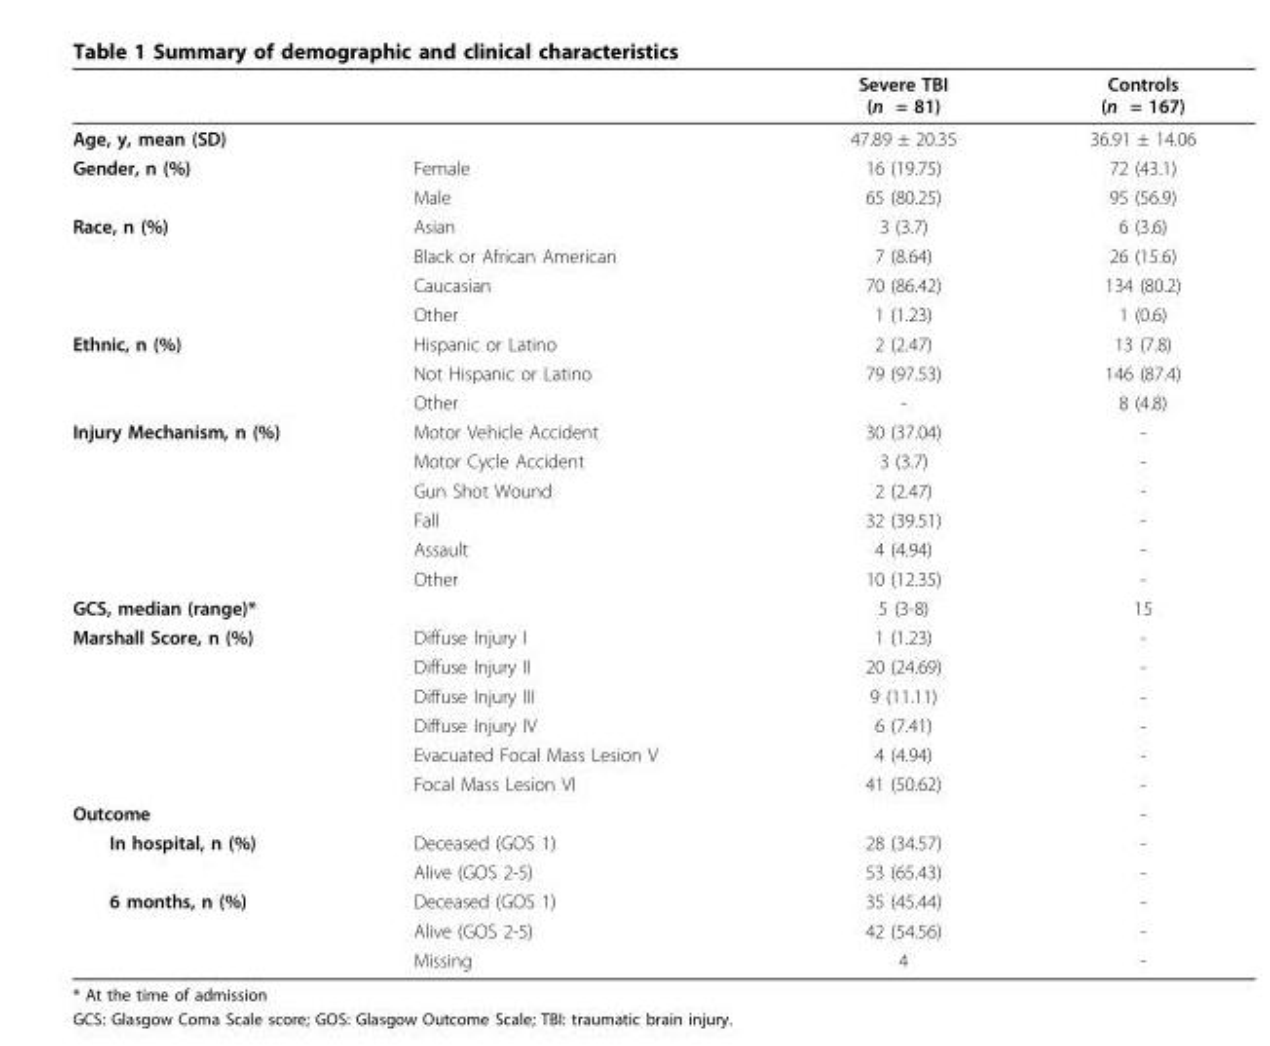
<table><thead><tr><td></td><td></td><td>Severe TBI (n = 81)</td><td>Controls (n = 167)</td></tr></thead><tbody><tr><td>Age, y, mean (SD)</td><td></td><td>47.89 ± 20.35</td><td>36.91 ± 14.06</td></tr><tr><td rowspan="2">Gender, n (%)</td><td>Female</td><td>16 (19.75)</td><td>72 (43.1)</td></tr><tr><td>Male</td><td>65 (80.25)</td><td>95 (56.9)</td></tr><tr><td rowspan="4">Race, n (%)</td><td>Asian</td><td>3 (3.7)</td><td>6 (3.6)</td></tr><tr><td>Black or African American</td><td>7 (8.64)</td><td>26 (15.6)</td></tr><tr><td>Caucasian</td><td>70 (86.42)</td><td>134 (80.2)</td></tr><tr><td>Other</td><td>1 (1.23)</td><td>1 (0.6)</td></tr><tr><td rowspan="3">Ethnic, n (%)</td><td>Hispanic or Latino</td><td>2 (2.47)</td><td>13 (7.8)</td></tr><tr><td>Not Hispanic or Latino</td><td>79 (97.53)</td><td>146 (87.4)</td></tr><tr><td>Other</td><td>-</td><td>8 (4.8)</td></tr><tr><td rowspan="6">Injury Mechanism, n (%)</td><td>Motor Vehicle Accident</td><td>30 (37.04)</td><td>-</td></tr><tr><td>Motor Cycle Accident</td><td>3 (3.7)</td><td>-</td></tr><tr><td>Gun Shot Wound</td><td>2 (2.47)</td><td>-</td></tr><tr><td>Fall</td><td>32 (39.51)</td><td>-</td></tr><tr><td>Assault</td><td>4 (4.94)</td><td>-</td></tr><tr><td>Other</td><td>10 (12.35)</td><td>-</td></tr><tr><td>GCS, median (range)*</td><td></td><td>5 (3-8)</td><td>15</td></tr><tr><td rowspan="6">Marshall Score, n (%)</td><td>Diffuse Injury I</td><td>1 (1.23)</td><td>-</td></tr><tr><td>Diffuse Injury II</td><td>20 (24.69)</td><td>-</td></tr><tr><td>Diffuse Injury III</td><td>9 (11.11)</td><td>-</td></tr><tr><td>Diffuse Injury IV</td><td>6 (7.41)</td><td>-</td></tr><tr><td>Evacuated Focal Mass Lesion V</td><td>4 (4.94)</td><td>-</td></tr><tr><td>Focal Mass Lesion VI</td><td>41 (50.62)</td><td>-</td></tr><tr><td>Outcome</td><td></td><td></td><td>-</td></tr><tr><td rowspan="2">In hospital, n (%)</td><td>Deceased (GOS 1)</td><td>28 (34.57)</td><td>-</td></tr><tr><td>Alive (GOS 2-5)</td><td>53 (65.43)</td><td>-</td></tr><tr><td rowspan="3">6 months, n (%)</td><td>Deceased (GOS 1)</td><td>35 (45.44)</td><td>-</td></tr><tr><td>Alive (GOS 2-5)</td><td>42 (54.56)</td><td>-</td></tr><tr><td>Missing</td><td>4</td><td>-</td></tr></tbody></table>